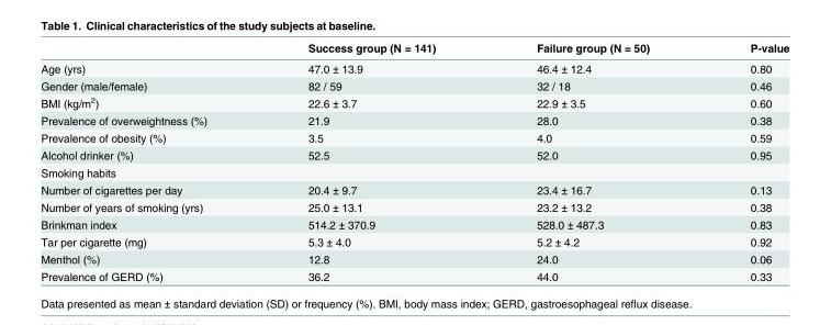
<table><thead><tr><td></td><td>Success group (N = 141)</td><td>Failure group (N = 50)</td><td>P-value</td></tr></thead><tbody><tr><td>Age (yrs)</td><td>47.0 ± 13.9</td><td>46.4 ± 12.4</td><td>0.80</td></tr><tr><td>Gender (male/female)</td><td>82 / 59</td><td>32 / 18</td><td>0.46</td></tr><tr><td>BMI (kg/m<sup>2</sup>)</td><td>22.6 ± 3.7</td><td>22.9 ± 3.5</td><td>0.60</td></tr><tr><td>Prevalence of overweightness (%)</td><td>21.9</td><td>28.0</td><td>0.38</td></tr><tr><td>Prevalence of obesity (%)</td><td>3.5</td><td>4.0</td><td>0.59</td></tr><tr><td>Alcohol drinker (%)</td><td>52.5</td><td>52.0</td><td>0.95</td></tr><tr><td colspan="4">Smoking habits</td></tr><tr><td>Number of cigarettes per day</td><td>20.4 ± 9.7</td><td>23.4 ± 16.7</td><td>0.13</td></tr><tr><td>Number of years of smoking (yrs)</td><td>25.0 ± 13.1</td><td>23.2 ± 13.2</td><td>0.38</td></tr><tr><td>Brinkman index</td><td>514.2 ± 370.9</td><td>528.0 ± 487.3</td><td>0.83</td></tr><tr><td>Tar per cigarette (mg)</td><td>5.3 ± 4.0</td><td>5.2 ± 4.2</td><td>0.92</td></tr><tr><td>Menthol (%)</td><td>12.8</td><td>24.0</td><td>0.06</td></tr><tr><td>Prevalence of GERD (%)</td><td>36.2</td><td>44.0</td><td>0.33</td></tr></tbody></table>